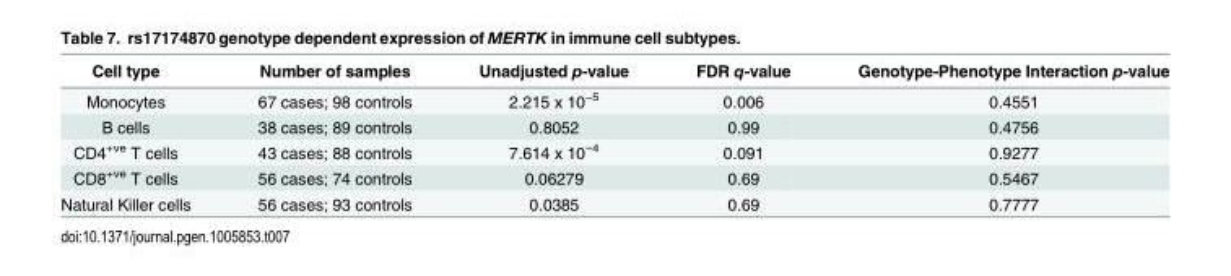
<table><thead><tr><td>Cell type</td><td>Number of samples</td><td>Unadjusted p-value</td><td>FDR q-value</td><td>Genotype-Phenotype Interaction p-value</td></tr></thead><tbody><tr><td>Monocytes</td><td>67 cases; 98 controls</td><td>2.215 x 10<sup>−5</sup></td><td>0.006</td><td>0.4551</td></tr><tr><td>B cells</td><td>38 cases; 89 controls</td><td>0.8052</td><td>0.99</td><td>0.4756</td></tr><tr><td>CD4<sup>+ve</sup> T cells</td><td>43 cases; 88 controls</td><td>7.614 x 10<sup>−4</sup></td><td>0.091</td><td>0.9277</td></tr><tr><td>CD8<sup>+ve</sup> T cells</td><td>56 cases; 74 controls</td><td>0.06279</td><td>0.69</td><td>0.5467</td></tr><tr><td>Natural Killer cells</td><td>56 cases; 93 controls</td><td>0.0385</td><td>0.69</td><td>0.7777</td></tr></tbody></table>